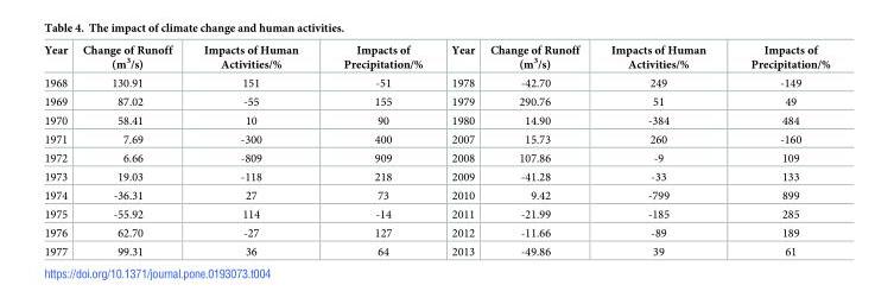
<table><thead><tr><td>Year</td><td>Change of Runoff (m<sup>3</sup>/s)</td><td>Impacts of Human Activities/%</td><td>Impacts of Precipitation/%</td><td>Year</td><td>Change of Runoff (m<sup>3</sup>/s)</td><td>Impacts of Human Activities/%</td><td>Impacts of Precipitation/%</td></tr></thead><tbody><tr><td>1968</td><td>130.91</td><td>151</td><td>-51</td><td>1978</td><td>-42.70</td><td>249</td><td>-149</td></tr><tr><td>1969</td><td>87.02</td><td>-55</td><td>155</td><td>1979</td><td>290.76</td><td>51</td><td>49</td></tr><tr><td>1970</td><td>58.41</td><td>10</td><td>90</td><td>1980</td><td>14.90</td><td>-384</td><td>484</td></tr><tr><td>1971</td><td>7.69</td><td>-300</td><td>400</td><td>2007</td><td>15.73</td><td>260</td><td>-160</td></tr><tr><td>1972</td><td>6.66</td><td>-809</td><td>909</td><td>2008</td><td>107.86</td><td>-9</td><td>109</td></tr><tr><td>1973</td><td>19.03</td><td>-118</td><td>218</td><td>2009</td><td>-41.28</td><td>-33</td><td>133</td></tr><tr><td>1974</td><td>-36.31</td><td>27</td><td>73</td><td>2010</td><td>9.42</td><td>-799</td><td>899</td></tr><tr><td>1975</td><td>-55.92</td><td>114</td><td>-14</td><td>2011</td><td>-21.99</td><td>-185</td><td>285</td></tr><tr><td>1976</td><td>62.70</td><td>-27</td><td>127</td><td>2012</td><td>-11.66</td><td>-89</td><td>189</td></tr><tr><td>1977</td><td>99.31</td><td>36</td><td>64</td><td>2013</td><td>-49.86</td><td>39</td><td>61</td></tr></tbody></table>